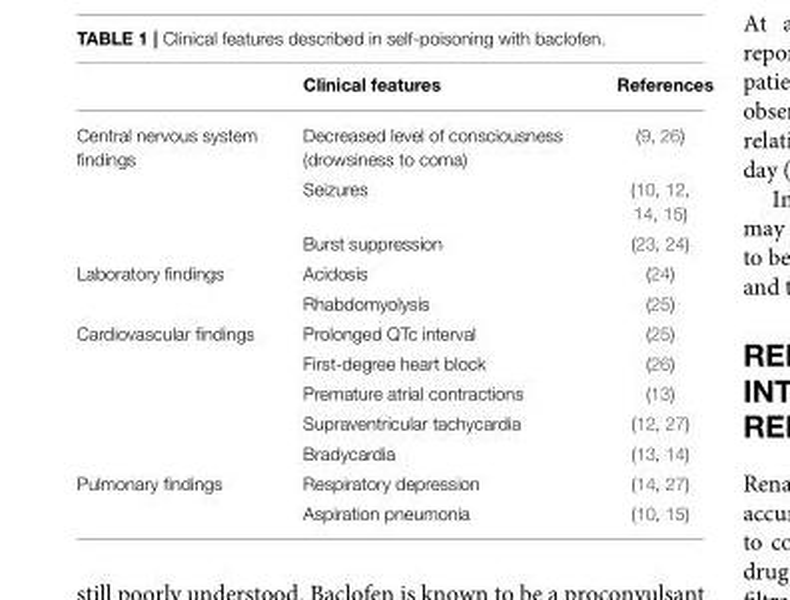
<table><thead><tr><td></td><td>Clinical features</td><td>References</td></tr></thead><tbody><tr><td rowspan="3">Central nervous system findings</td><td>Decreased level of consciousness (drowsiness to coma)</td><td>(9, 26)</td></tr><tr><td>Seizures</td><td>(10, 12, 14, 15)</td></tr><tr><td>Burst suppression</td><td>(23, 24)</td></tr><tr><td rowspan="2">Laboratory findings</td><td>Acidosis</td><td>(24)</td></tr><tr><td>Rhabdomyolysis</td><td>(25)</td></tr><tr><td rowspan="5">Cardiovascular findings</td><td>Prolonged QTc interval</td><td>(25)</td></tr><tr><td>First-degree heart block</td><td>(26)</td></tr><tr><td>Premature atrial contractions</td><td>(13)</td></tr><tr><td>Supraventricular tachycardia</td><td>(12, 27)</td></tr><tr><td>Bradycardia</td><td>(13, 14)</td></tr><tr><td rowspan="2">Pulmonary findings</td><td>Respiratory depression</td><td>(14, 27)</td></tr><tr><td>Aspiration pneumonia</td><td>(10, 15)</td></tr></tbody></table>